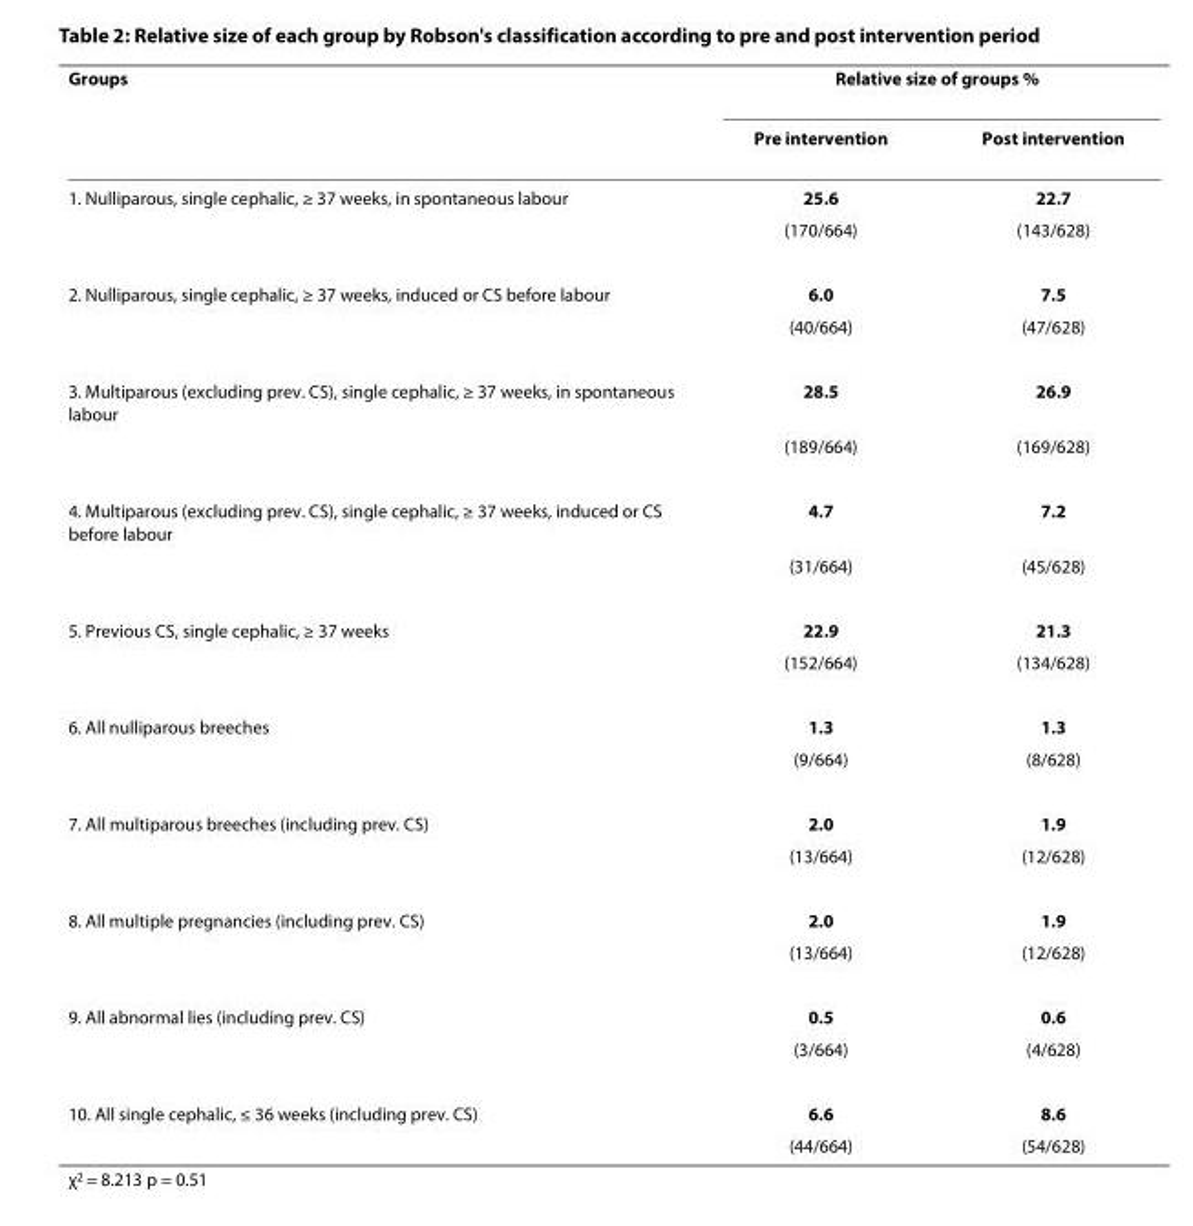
<table><thead><tr><td rowspan="2">Groups</td><td colspan="2">Relative size of groups %</td></tr><tr><td>Pre intervention</td><td>Post intervention</td></tr></thead><tbody><tr><td rowspan="2">1. Nulliparous, single cephalic, ≥ 37 weeks, in spontaneous labour</td><td>25.6</td><td>22.7</td></tr><tr><td>(170/664)</td><td>(143/628)</td></tr><tr><td rowspan="2">2. Nulliparous, single cephalic, ≥ 37 weeks, induced or CS before labour</td><td>6.0</td><td>7.5</td></tr><tr><td>(40/664)</td><td>(47/628)</td></tr><tr><td rowspan="2">3. Multiparous (excluding prev. CS), single cephalic, ≥ 37 weeks, in spontaneous labour</td><td>28.5</td><td>26.9</td></tr><tr><td>(189/664)</td><td>(169/628)</td></tr><tr><td rowspan="2">4. Multiparous (excluding prev. CS), single cephalic, ≥ 37 weeks, induced or CS before labour</td><td>4.7</td><td>7.2</td></tr><tr><td>(31/664)</td><td>(45/628)</td></tr><tr><td rowspan="2">5. Previous CS, single cephalic, ≥ 37 weeks</td><td>22.9</td><td>21.3</td></tr><tr><td>(152/664)</td><td>(134/628)</td></tr><tr><td rowspan="2">6. All nulliparous breeches</td><td>1.3</td><td>1.3</td></tr><tr><td>(9/664)</td><td>(8/628)</td></tr><tr><td rowspan="2">7. All multiparous breeches (including prev. CS)</td><td>2.0</td><td>1.9</td></tr><tr><td>(13/664)</td><td>(12/628)</td></tr><tr><td rowspan="2">8. All multiple pregnancies (including prev. CS)</td><td>2.0</td><td>1.9</td></tr><tr><td>(13/664)</td><td>(12/628)</td></tr><tr><td rowspan="2">9. All abnormal lies (including prev. CS)</td><td>0.5</td><td>0.6</td></tr><tr><td>(3/664)</td><td>(4/628)</td></tr><tr><td rowspan="2">10. All single cephalic, ≤ 36 weeks (including prev. CS)</td><td>6.6</td><td>8.6</td></tr><tr><td>(44/664)</td><td>(54/628)</td></tr></tbody></table>